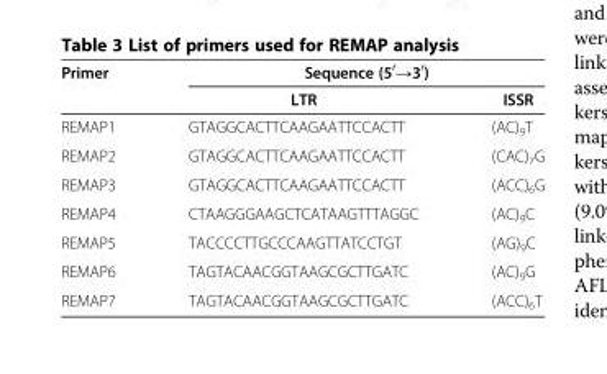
<table><thead><tr><td rowspan="2">Primer</td><td colspan="2">Sequence (5<sup>′</sup>→3<sup>′</sup>)</td></tr><tr><td>LTR</td><td>ISSR</td></tr></thead><tbody><tr><td>REMAP1</td><td>GTAGGCACTTCAAGAATTCCACTT</td><td>(AC)<sub>9</sub>T</td></tr><tr><td>REMAP2</td><td>GTAGGCACTTCAAGAATTCCACTT</td><td>(CAC)<sub>7</sub>G</td></tr><tr><td>REMAP3</td><td>GTAGGCACTTCAAGAATTCCACTT</td><td>(ACC)<sub>6</sub>G</td></tr><tr><td>REMAP4</td><td>CTAAGGGAAGCTCATAAGTTTAGGC</td><td>(AC)<sub>9</sub>C</td></tr><tr><td>REMAP5</td><td>TACCCCTTGCCCAAGTTATCCTGT</td><td>(AG)<sub>9</sub>C</td></tr><tr><td>REMAP6</td><td>TAGTACAACGGTAAGCGCTTGATC</td><td>(AC)<sub>9</sub>G</td></tr><tr><td>REMAP7</td><td>TAGTACAACGGTAAGCGCTTGATC</td><td>(ACC)<sub>6</sub>T</td></tr></tbody></table>